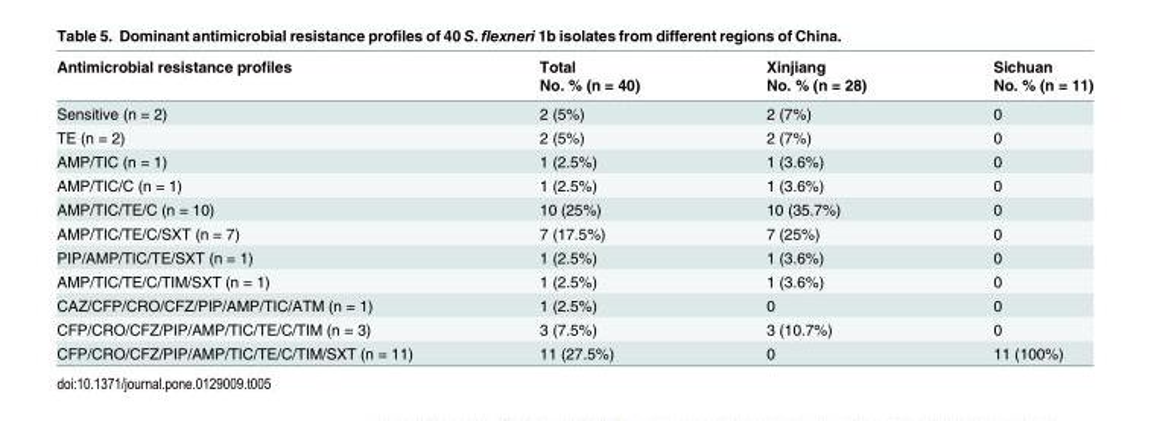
<table><thead><tr><td rowspan="2">Antimicrobial resistance profiles</td><td rowspan="2">Total No. % (n = 40)</td><td rowspan="2">Xinjiang No. % (n = 28)</td><td rowspan="2">Sichuan No. % (n = 11)</td></tr><tr></tr></thead><tbody><tr><td>Sensitive (n = 2)</td><td>2 (5%)</td><td>2 (7%)</td><td>0</td></tr><tr><td>TE (n = 2)</td><td>2 (5%)</td><td>2 (7%)</td><td>0</td></tr><tr><td>AMP/TIC (n = 1)</td><td>1 (2.5%)</td><td>1 (3.6%)</td><td>0</td></tr><tr><td>AMP/TIC/C (n = 1)</td><td>1 (2.5%)</td><td>1 (3.6%)</td><td>0</td></tr><tr><td>AMP/TIC/TE/C (n = 10)</td><td>10 (25%)</td><td>10 (35.7%)</td><td>0</td></tr><tr><td>AMP/TIC/TE/C/SXT (n = 7)</td><td>7 (17.5%)</td><td>7 (25%)</td><td>0</td></tr><tr><td>PIP/AMP/TIC/TE/SXT (n = 1)</td><td>1 (2.5%)</td><td>1 (3.6%)</td><td>0</td></tr><tr><td>AMP/TIC/TE/C/TIM/SXT (n = 1)</td><td>1 (2.5%)</td><td>1 (3.6%)</td><td>0</td></tr><tr><td>CAZ/CFP/CRO/CFZ/PIP/AMP/TIC/ATM (n = 1)</td><td>1 (2.5%)</td><td>0</td><td>0</td></tr><tr><td>CFP/CRO/CFZ/PIP/AMP/TIC/TE/C/TIM (n = 3)</td><td>3 (7.5%)</td><td>3 (10.7%)</td><td>0</td></tr><tr><td>CFP/CRO/CFZ/PIP/AMP/TIC/TE/C/TIM/SXT (n = 11)</td><td>11 (27.5%)</td><td>0</td><td>11 (100%)</td></tr></tbody></table>